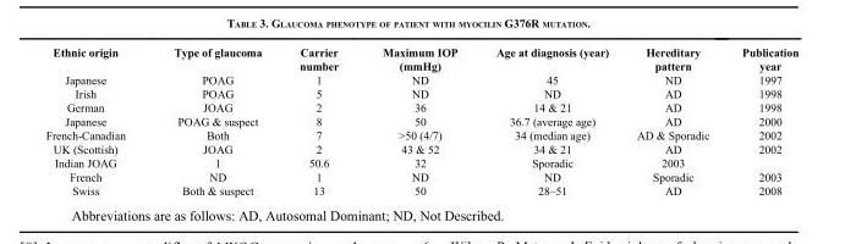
<table><thead><tr><td>Ethnic origin</td><td>Type of glaucoma</td><td>Carrier number</td><td>Maximum IOP (mmHg)</td><td>Age at diagnosis (year)</td><td>Hereditary pattern</td><td>Publication year</td></tr></thead><tbody><tr><td>Japanese</td><td>POAG</td><td>1</td><td>ND</td><td>45</td><td>ND</td><td>1997</td></tr><tr><td>Irish</td><td>POAG</td><td>5</td><td>ND</td><td>ND</td><td>AD</td><td>1998</td></tr><tr><td>German</td><td>JOAG</td><td>2</td><td>36</td><td>14 &amp; 21</td><td>AD</td><td>1998</td></tr><tr><td>Japanese</td><td>POAG &amp; suspect</td><td>8</td><td>50</td><td>36.7 (average age)</td><td>AD</td><td>2000</td></tr><tr><td>French-Canadian</td><td>Both</td><td>7</td><td>&gt;50 (4/7)</td><td>34 (median age)</td><td>AD &amp; Sporadic</td><td>2002</td></tr><tr><td>UK (Scottish)</td><td>JOAG</td><td>2</td><td>43 &amp; 52</td><td>34 &amp; 21</td><td>AD</td><td>2002</td></tr><tr><td>Indian JOAG</td><td>1</td><td>50.6</td><td>32</td><td>Sporadic</td><td>2003</td><td></td></tr><tr><td>French</td><td>ND</td><td>1</td><td>ND</td><td>ND</td><td>Sporadic</td><td>2003</td></tr><tr><td>Swiss</td><td>Both &amp; suspect</td><td>13</td><td>50</td><td>28–51</td><td>AD</td><td>2008</td></tr></tbody></table>